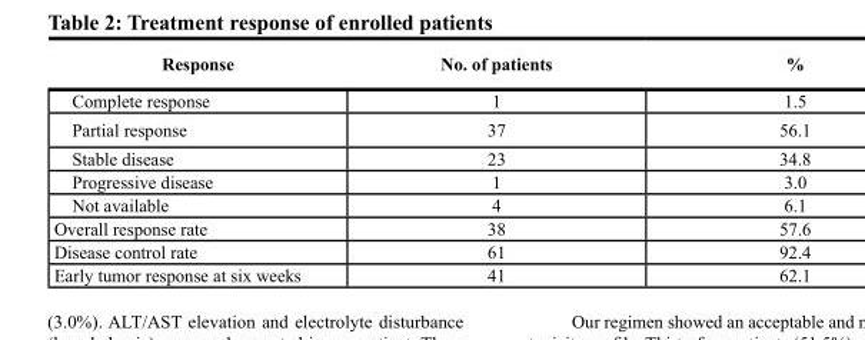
<table><thead><tr><td>response</td><td>no. of patients</td><td>%</td></tr></thead><tbody><tr><td>Complete response</td><td>1</td><td>1.5</td></tr><tr><td>Partial response</td><td>37</td><td>56.1</td></tr><tr><td>Stable disease</td><td>23</td><td>34.8</td></tr><tr><td>Progressive disease</td><td>1</td><td>3.0</td></tr><tr><td>Not available</td><td>4</td><td>6.1</td></tr><tr><td>Overall response rate</td><td>38</td><td>57.6</td></tr><tr><td>Disease control rate</td><td>61</td><td>92.4</td></tr><tr><td>Early tumor response at six weeks</td><td>41</td><td>62.1</td></tr></tbody></table>